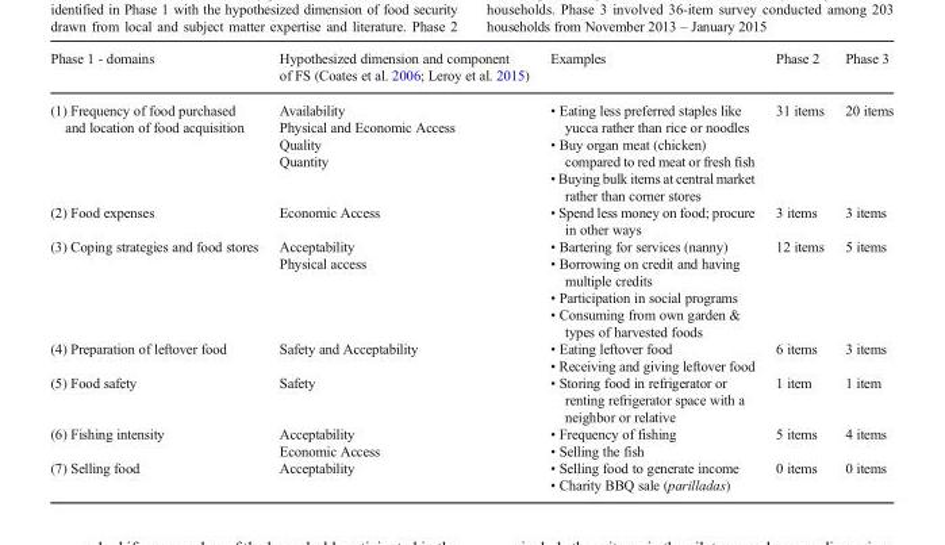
<table><thead><tr><td>Phase 1 - domains</td><td>Hypothesized dimension and component of FS (Coates et al. 2006; Leroy et al. 2015)</td><td>Examples</td><td>Phase 2</td><td>Phase 3</td></tr></thead><tbody><tr><td>(1) Frequency of food purchased and location of food acquisition</td><td>Availability Physical and Economic Access Quality Quantity</td><td>• Eating less preferred staples like yucca rather than rice or noodles • Buy organ meat (chicken) compared to red meat or fresh fish • Buying bulk items at central market rather than corner stores</td><td>31 items</td><td>20 items</td></tr><tr><td>(2) Food expenses</td><td>Economic Access</td><td>• Spend less money on food; procure in other ways</td><td>3 items</td><td>3 items</td></tr><tr><td>(3) Coping strategies and food stores</td><td>Acceptability Physical access</td><td>• Bartering for services (nanny) • Borrowing on credit and having multiple credits • Participation in social programs • Consuming from own garden &amp; types of harvested foods</td><td>12 items</td><td>5 items</td></tr><tr><td>(4) Preparation of leftover food</td><td>Safety and Acceptability</td><td>• Eating leftover food • Receiving and giving leftover food</td><td>6 items</td><td>3 items</td></tr><tr><td>(5) Food safety</td><td>Safety</td><td>• Storing food in refrigerator or renting refrigerator space with a neighbor or relative</td><td>1 item</td><td>1 item</td></tr><tr><td>(6) Fishing intensity</td><td>Acceptability Economic Access</td><td>• Frequency of fishing • Selling the fish</td><td>5 items</td><td>4 items</td></tr><tr><td>(7) Selling food</td><td>Acceptability</td><td>• Selling food to generate income • Charity BBQ sale (parilladas)</td><td>0 items</td><td>0 items</td></tr></tbody></table>